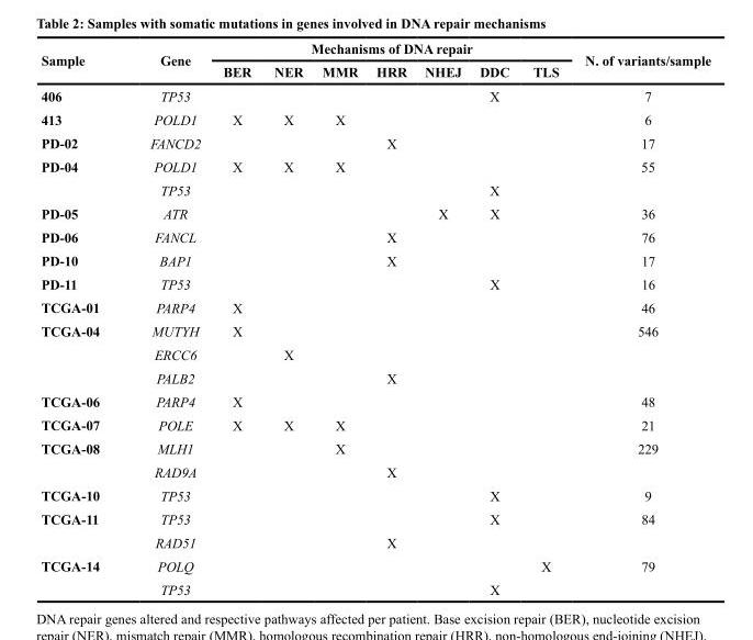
<table><thead><tr><td rowspan="2">Sample</td><td rowspan="2">Gene</td><td colspan="7">Mechanisms of DNA repair</td><td rowspan="2">N. of variants/sample</td></tr><tr><td>BER</td><td>NER</td><td>MMR</td><td>HRR</td><td>NHEJ</td><td>DDC</td><td>TLS</td></tr></thead><tbody><tr><td>406</td><td>TP53</td><td></td><td></td><td></td><td></td><td></td><td>X</td><td></td><td>7</td></tr><tr><td>413</td><td>POLD1</td><td>X</td><td>X</td><td>X</td><td></td><td></td><td></td><td></td><td>6</td></tr><tr><td>PD-02</td><td>FANCD2</td><td></td><td></td><td></td><td>X</td><td></td><td></td><td></td><td>17</td></tr><tr><td rowspan="2">PD-04</td><td>POLD1</td><td>X</td><td>X</td><td>X</td><td></td><td></td><td></td><td></td><td>55</td></tr><tr><td>TP53</td><td></td><td></td><td></td><td></td><td></td><td>X</td><td></td><td></td></tr><tr><td>PD-05</td><td>ATR</td><td></td><td></td><td></td><td></td><td>X</td><td>X</td><td></td><td>36</td></tr><tr><td>PD-06</td><td>FANCL</td><td></td><td></td><td></td><td>X</td><td></td><td></td><td></td><td>76</td></tr><tr><td>PD-10</td><td>BAP1</td><td></td><td></td><td></td><td>X</td><td></td><td></td><td></td><td>17</td></tr><tr><td>PD-11</td><td>TP53</td><td></td><td></td><td></td><td></td><td></td><td>X</td><td></td><td>16</td></tr><tr><td>TCGA-01</td><td>PARP4</td><td>X</td><td></td><td></td><td></td><td></td><td></td><td></td><td>46</td></tr><tr><td rowspan="3">TCGA-04</td><td>MUTYH</td><td>X</td><td></td><td></td><td></td><td></td><td></td><td></td><td>546</td></tr><tr><td>ERCC6</td><td></td><td>X</td><td></td><td></td><td></td><td></td><td></td><td></td></tr><tr><td>PALB2</td><td></td><td></td><td></td><td>X</td><td></td><td></td><td></td><td></td></tr><tr><td>TCGA-06</td><td>PARP4</td><td>X</td><td></td><td></td><td></td><td></td><td></td><td></td><td>48</td></tr><tr><td>TCGA-07</td><td>POLE</td><td>X</td><td>X</td><td>X</td><td></td><td></td><td></td><td></td><td>21</td></tr><tr><td rowspan="2">TCGA-08</td><td>MLH1</td><td></td><td></td><td>X</td><td></td><td></td><td></td><td></td><td>229</td></tr><tr><td>RAD9A</td><td></td><td></td><td></td><td>X</td><td></td><td></td><td></td><td></td></tr><tr><td>TCGA-10</td><td>TP53</td><td></td><td></td><td></td><td></td><td></td><td>X</td><td></td><td>9</td></tr><tr><td rowspan="2">TCGA-11</td><td>TP53</td><td></td><td></td><td></td><td></td><td></td><td>X</td><td></td><td>84</td></tr><tr><td>RAD51</td><td></td><td></td><td></td><td>X</td><td></td><td></td><td></td><td></td></tr><tr><td rowspan="2">TCGA-14</td><td>POLQ</td><td></td><td></td><td></td><td></td><td></td><td></td><td>X</td><td>79</td></tr><tr><td>TP53</td><td></td><td></td><td></td><td></td><td></td><td>X</td><td></td><td></td></tr></tbody></table>